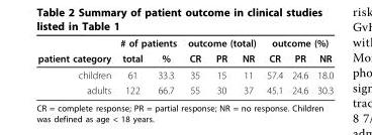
<table><thead><tr><td rowspan="2">patient category</td><td colspan="2"># of patients</td><td colspan="3">outcome (total)</td><td colspan="3">outcome (%)</td></tr><tr><td>total</td><td>%</td><td>CR</td><td>PR</td><td>NR</td><td>CR</td><td>PR</td><td>NR</td></tr></thead><tbody><tr><td>children</td><td>61</td><td>33.3</td><td>35</td><td>15</td><td>11</td><td>57.4</td><td>24.6</td><td>18.0</td></tr><tr><td>adults</td><td>122</td><td>66.7</td><td>55</td><td>30</td><td>37</td><td>45.1</td><td>24.6</td><td>30.3</td></tr></tbody></table>